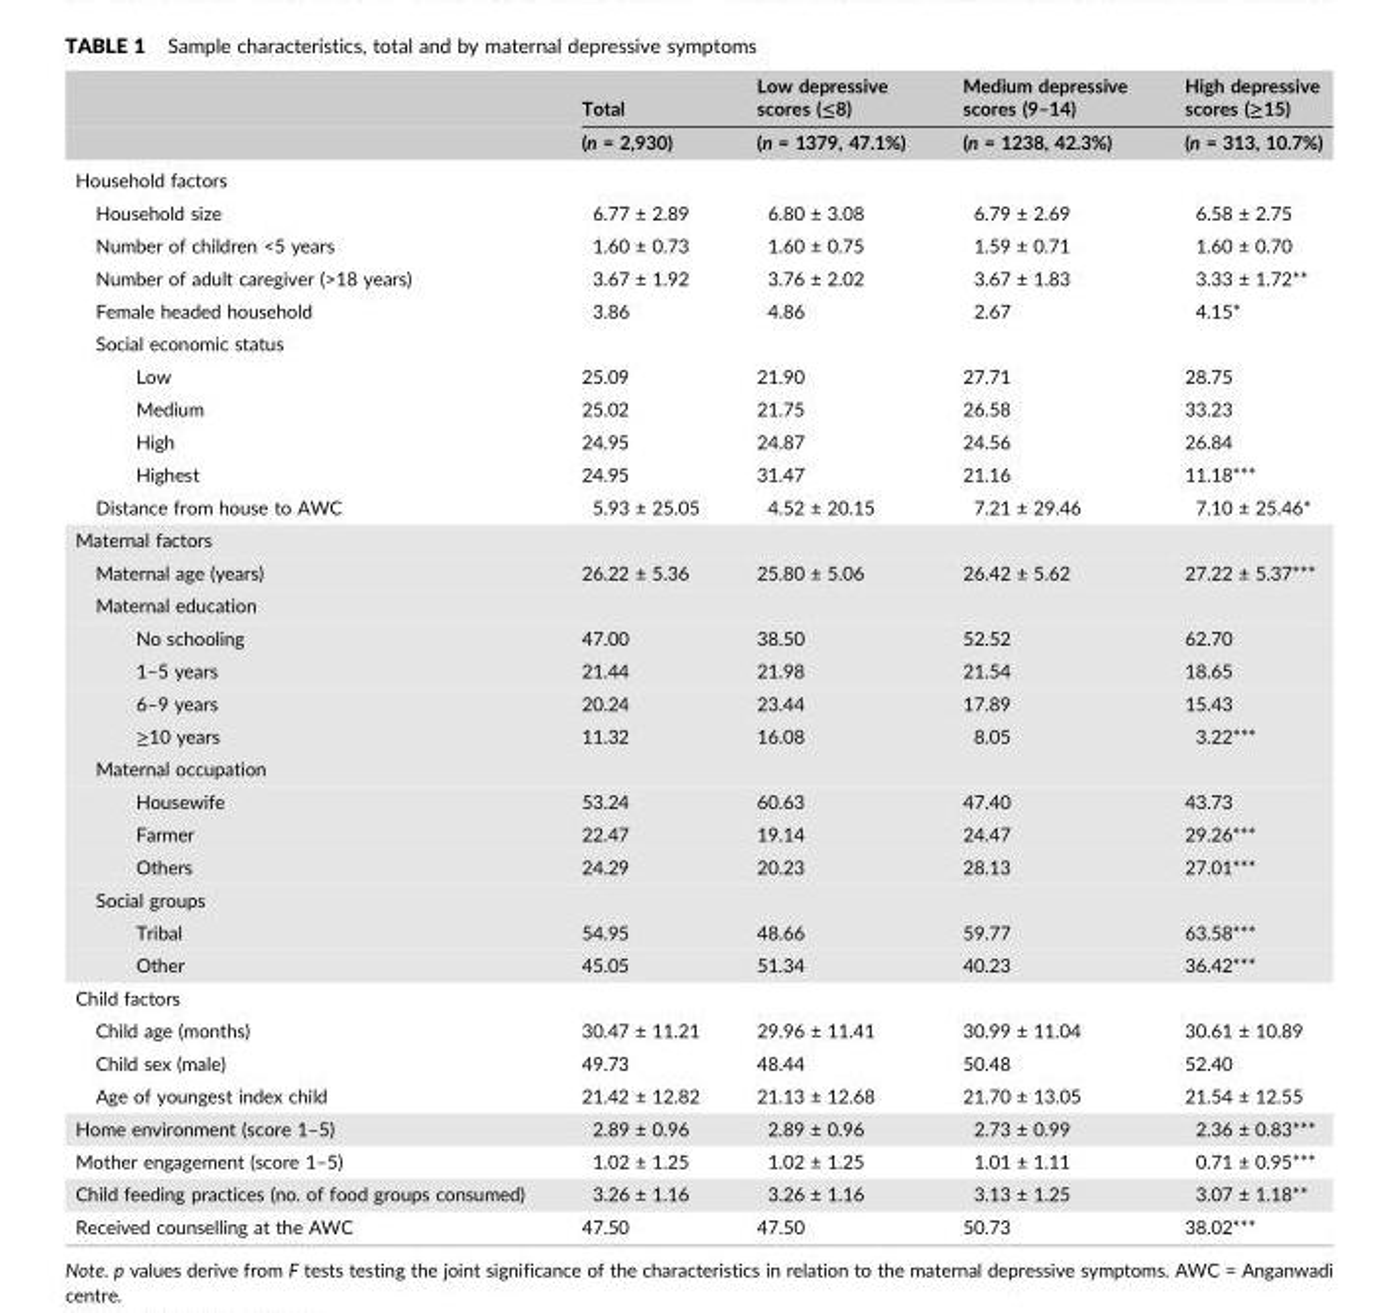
<table><thead><tr><td rowspan="2"></td><td rowspan="2">Total (n = 2,930)</td><td rowspan="2">Low depressive scores (≤8) (n = 1379, 47.1%)</td><td rowspan="2">Medium depressive scores (9–14) (n = 1238, 42.3%)</td><td rowspan="2">High depressive scores (≥15) (n = 313, 10.7%)</td></tr><tr></tr></thead><tbody><tr><td colspan="5">Household factors</td></tr><tr><td>Household size</td><td>6.77 ± 2.89</td><td>6.80 ± 3.08</td><td>6.79 ± 2.69</td><td>6.58 ± 2.75</td></tr><tr><td>Number of children &lt;5 years</td><td>1.60 ± 0.73</td><td>1.60 ± 0.75</td><td>1.59 ± 0.71</td><td>1.60 ± 0.70</td></tr><tr><td>Number of adult caregiver (&gt;18 years)</td><td>3.67 ± 1.92</td><td>3.76 ± 2.02</td><td>3.67 ± 1.83</td><td>3.33 ± 1.72**</td></tr><tr><td>Female headed household</td><td>3.86</td><td>4.86</td><td>2.67</td><td>4.15*</td></tr><tr><td colspan="5">Social economic status</td></tr><tr><td>Low</td><td>25.09</td><td>21.90</td><td>27.71</td><td>28.75</td></tr><tr><td>Medium</td><td>25.02</td><td>21.75</td><td>26.58</td><td>33.23</td></tr><tr><td>High</td><td>24.95</td><td>24.87</td><td>24.56</td><td>26.84</td></tr><tr><td>Highest</td><td>24.95</td><td>31.47</td><td>21.16</td><td>11.18***</td></tr><tr><td>Distance from house to AWC</td><td>5.93 ± 25.05</td><td>4.52 ± 20.15</td><td>7.21 ± 29.46</td><td>7.10 ± 25.46*</td></tr><tr><td colspan="5">Maternal factors</td></tr><tr><td>Maternal age (years)</td><td>26.22 ± 5.36</td><td>25.80 ± 5.06</td><td>26.42 ± 5.62</td><td>27.22 ± 5.37***</td></tr><tr><td colspan="5">Maternal education</td></tr><tr><td>No schooling</td><td>47.00</td><td>38.50</td><td>52.52</td><td>62.70</td></tr><tr><td>1–5 years</td><td>21.44</td><td>21.98</td><td>21.54</td><td>18.65</td></tr><tr><td>6–9 years</td><td>20.24</td><td>23.44</td><td>17.89</td><td>15.43</td></tr><tr><td>≥10 years</td><td>11.32</td><td>16.08</td><td>8.05</td><td>3.22***</td></tr><tr><td colspan="5">Maternal occupation</td></tr><tr><td>Housewife</td><td>53.24</td><td>60.63</td><td>47.40</td><td>43.73</td></tr><tr><td>Farmer</td><td>22.47</td><td>19.14</td><td>24.47</td><td>29.26***</td></tr><tr><td>Others</td><td>24.29</td><td>20.23</td><td>28.13</td><td>27.01***</td></tr><tr><td colspan="5">Social groups</td></tr><tr><td>Tribal</td><td>54.95</td><td>48.66</td><td>59.77</td><td>63.58***</td></tr><tr><td>Other</td><td>45.05</td><td>51.34</td><td>40.23</td><td>36.42***</td></tr><tr><td colspan="5">Child factors</td></tr><tr><td>Child age (months)</td><td>30.47 ± 11.21</td><td>29.96 ± 11.41</td><td>30.99 ± 11.04</td><td>30.61 ± 10.89</td></tr><tr><td>Child sex (male)</td><td>49.73</td><td>48.44</td><td>50.48</td><td>52.40</td></tr><tr><td>Age of youngest index child</td><td>21.42 ± 12.82</td><td>21.13 ± 12.68</td><td>21.70 ± 13.05</td><td>21.54 ± 12.55</td></tr><tr><td>Home environment (score 1–5)</td><td>2.89 ± 0.96</td><td>2.89 ± 0.96</td><td>2.73 ± 0.99</td><td>2.36 ± 0.83***</td></tr><tr><td>Mother engagement (score 1–5)</td><td>1.02 ± 1.25</td><td>1.02 ± 1.25</td><td>1.01 ± 1.11</td><td>0.71 ± 0.95***</td></tr><tr><td>Child feeding practices (no. of food groups consumed)</td><td>3.26 ± 1.16</td><td>3.26 ± 1.16</td><td>3.13 ± 1.25</td><td>3.07 ± 1.18**</td></tr><tr><td>Received counselling at the AWC</td><td>47.50</td><td>47.50</td><td>50.73</td><td>38.02***</td></tr></tbody></table>